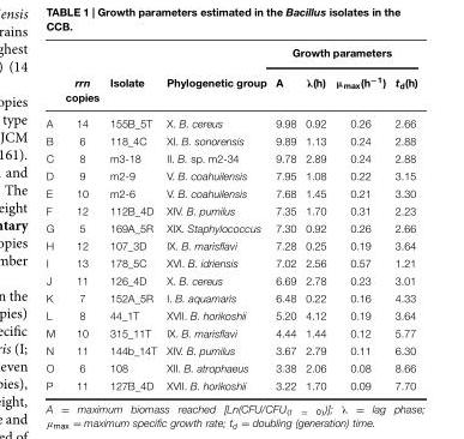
<table><thead><tr><td rowspan="2"></td><td rowspan="2">rrn copies</td><td rowspan="2">Isolate</td><td rowspan="2">Phylogenetic group</td><td colspan="4">Growth parameters</td></tr><tr><td>A</td><td>λ(h)</td><td>μ<sub>max</sub>(h<sup>−1</sup>)</td><td>t<sub>d</sub>(h)</td></tr></thead><tbody><tr><td>A</td><td>14</td><td>155B_5T</td><td>X. B. cereus</td><td>9.98</td><td>0.92</td><td>0.26</td><td>2.66</td></tr><tr><td>B</td><td>6</td><td>118_4C</td><td>XI. B. sonorensis</td><td>9.89</td><td>1.13</td><td>0.24</td><td>2.88</td></tr><tr><td>C</td><td>8</td><td>m3-18</td><td>II. B. sp. m2-34</td><td>9.78</td><td>2.89</td><td>0.24</td><td>2.88</td></tr><tr><td>D</td><td>9</td><td>m2-9</td><td>V. B. coahuilensis</td><td>7.95</td><td>1.08</td><td>0.22</td><td>3.15</td></tr><tr><td>E</td><td>10</td><td>m2-6</td><td>V. B. coahuilensis</td><td>7.68</td><td>1.45</td><td>0.21</td><td>3.30</td></tr><tr><td>F</td><td>12</td><td>112B_4D</td><td>XIV. B. pumilus</td><td>7.35</td><td>1.70</td><td>0.31</td><td>2.23</td></tr><tr><td>G</td><td>5</td><td>169A_5R</td><td>XIX. Staphylococcus</td><td>7.30</td><td>0.92</td><td>0.26</td><td>2.66</td></tr><tr><td>H</td><td>12</td><td>107_3D</td><td>IX. B. marisflavi</td><td>7.28</td><td>0.25</td><td>0.19</td><td>3.64</td></tr><tr><td>I</td><td>13</td><td>178_5C</td><td>XVI. B. idriensis</td><td>7.02</td><td>2.56</td><td>0.57</td><td>1.21</td></tr><tr><td>J</td><td>11</td><td>126_4D</td><td>X. B. cereus</td><td>6.69</td><td>2.78</td><td>0.23</td><td>3.01</td></tr><tr><td>K</td><td>7</td><td>152A_5R</td><td>I. B. aquamaris</td><td>6.48</td><td>0.22</td><td>0.16</td><td>4.33</td></tr><tr><td>L</td><td>8</td><td>44_1T</td><td>XVII. B. horikoshii</td><td>5.20</td><td>4.12</td><td>0.19</td><td>3.64</td></tr><tr><td>M</td><td>10</td><td>315_11T</td><td>IX. B. marisflavi</td><td>4.44</td><td>1.44</td><td>0.12</td><td>5.77</td></tr><tr><td>N</td><td>11</td><td>144b_14T</td><td>XIV. B. pumilus</td><td>3.67</td><td>2.79</td><td>0.11</td><td>6.30</td></tr><tr><td>O</td><td>6</td><td>108</td><td>XII. B. atrophaeus</td><td>3.38</td><td>2.06</td><td>0.08</td><td>8.66</td></tr><tr><td>P</td><td>11</td><td>127B_4D</td><td>XVII. B. horikoshii</td><td>3.22</td><td>1.70</td><td>0.09</td><td>7.70</td></tr></tbody></table>